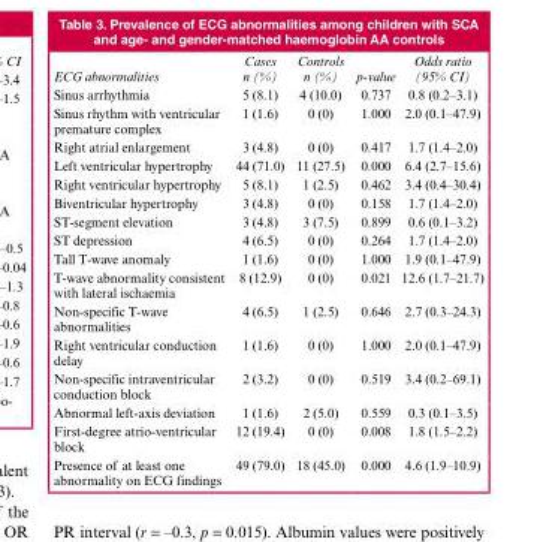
<table><thead><tr><td>ECG abnormalities</td><td>Cases n (%)</td><td>Controls n (%)</td><td>p-value</td><td>Odds ratio (95% CI)</td></tr></thead><tbody><tr><td>Sinus arrhythmia</td><td>5 (8.1)</td><td>4 (10.0)</td><td>0.737</td><td>0.8 (0.2–3.1)</td></tr><tr><td>Sinus rhythm with ventricular premature complex</td><td>1 (1.6)</td><td>0 (0)</td><td>1.000</td><td>2.0 (0.1–47.9)</td></tr><tr><td>Right atrial enlargement</td><td>3 (4.8)</td><td>0 (0)</td><td>0.417</td><td>1.7 (1.4–2.0)</td></tr><tr><td>Left ventricular hypertrophy</td><td>44 (71.0)</td><td>11 (27.5)</td><td>0.000</td><td>6.4 (2.7–15.6)</td></tr><tr><td>Right ventricular hypertrophy</td><td>5 (8.1)</td><td>1 (2.5)</td><td>0.462</td><td>3.4 (0.4–30.4)</td></tr><tr><td>Biventricular hypertrophy</td><td>3 (4.8)</td><td>0 (0)</td><td>0.158</td><td>1.7 (1.4–2.0)</td></tr><tr><td>ST-segment elevation</td><td>3 (4.8)</td><td>3 (7.5)</td><td>0.899</td><td>0.6 (0.1–3.2)</td></tr><tr><td>ST depression</td><td>4 (6.5)</td><td>0 (0)</td><td>0.264</td><td>1.7 (1.4–2.0)</td></tr><tr><td>Tall T-wave anomaly</td><td>1 (1.6)</td><td>0 (0)</td><td>1.000</td><td>1.9 (0.1–47.9)</td></tr><tr><td>T-wave abnormality consistent with lateral ischaemia</td><td>8 (12.9)</td><td>0 (0)</td><td>0.021</td><td>12.6 (1.7–21.7)</td></tr><tr><td>Non-specific T-wave abnormalities</td><td>4 (6.5)</td><td>1 (2.5)</td><td>0.646</td><td>2.7 (0.3–24.3)</td></tr><tr><td>Right ventricular conduction delay</td><td>1 (1.6)</td><td>0 (0)</td><td>1.000</td><td>2.0 (0.1–47.9)</td></tr><tr><td>Non-specific intraventricular conduction block</td><td>2 (3.2)</td><td>0 (0)</td><td>0.519</td><td>3.4 (0.2–69.1)</td></tr><tr><td>Abnormal left-axis deviation</td><td>1 (1.6)</td><td>2 (5.0)</td><td>0.559</td><td>0.3 (0.1–3.5)</td></tr><tr><td>First-degree atrio-ventricular block</td><td>12 (19.4)</td><td>0 (0)</td><td>0.008</td><td>1.8 (1.5–2.2)</td></tr><tr><td>Presence of at least one abnormality on ECG findings</td><td>49 (79.0)</td><td>18 (45.0)</td><td>0.000</td><td>4.6 (1.9–10.9)</td></tr></tbody></table>